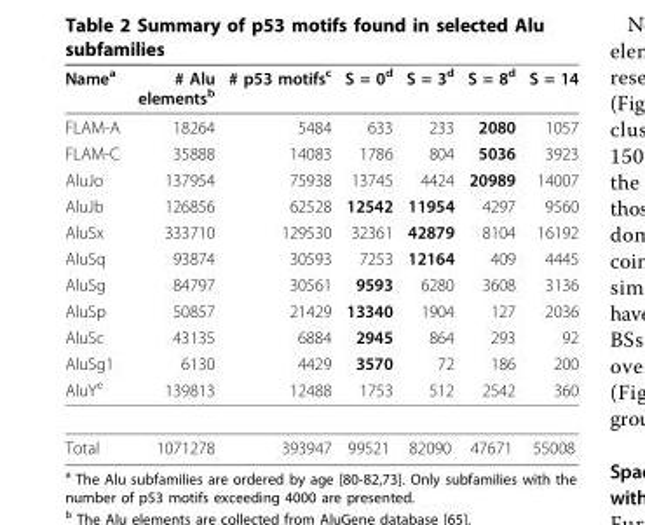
<table><thead><tr><td>Name<sup>a</sup></td><td># Alu elements<sup>b</sup></td><td># p53 motifs<sup>c</sup></td><td>S = 0<sup>d</sup></td><td>S = 3<sup>d</sup></td><td>S = 8<sup>d</sup></td><td>S = 14</td></tr></thead><tbody><tr><td>FLAM-A</td><td>18264</td><td>5484</td><td>633</td><td>233</td><td>2080</td><td>1057</td></tr><tr><td>FLAM-C</td><td>35888</td><td>14083</td><td>1786</td><td>804</td><td>5036</td><td>3923</td></tr><tr><td>AluJo</td><td>137954</td><td>75938</td><td>13745</td><td>4424</td><td>20989</td><td>14007</td></tr><tr><td>AluJb</td><td>126856</td><td>62528</td><td>12542</td><td>11954</td><td>4297</td><td>9560</td></tr><tr><td>AluSx</td><td>333710</td><td>129530</td><td>32361</td><td>42879</td><td>8104</td><td>16192</td></tr><tr><td>AluSq</td><td>93874</td><td>30593</td><td>7253</td><td>12164</td><td>409</td><td>4445</td></tr><tr><td>AluSg</td><td>84797</td><td>30561</td><td>9593</td><td>6280</td><td>3608</td><td>3136</td></tr><tr><td>AluSp</td><td>50857</td><td>21429</td><td>13340</td><td>1904</td><td>127</td><td>2036</td></tr><tr><td>AluSc</td><td>43135</td><td>6884</td><td>2945</td><td>864</td><td>293</td><td>92</td></tr><tr><td>AluSg1</td><td>6130</td><td>4429</td><td>3570</td><td>72</td><td>186</td><td>200</td></tr><tr><td>AluY<sup>e</sup></td><td>139813</td><td>12488</td><td>1753</td><td>512</td><td>2542</td><td>360</td></tr><tr><td>Total</td><td>1071278</td><td>393947</td><td>99521</td><td>82090</td><td>47671</td><td>55008</td></tr></tbody></table>